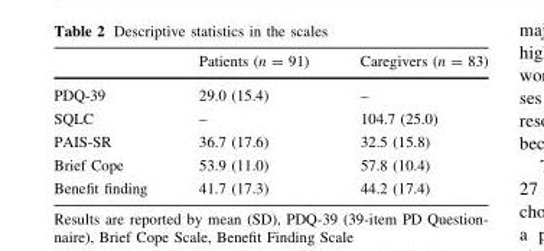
<table><thead><tr><td></td><td>Patients (n = 91)</td><td>Caregivers (n = 83)</td></tr></thead><tbody><tr><td>PDQ-39</td><td>29.0 (15.4)</td><td>–</td></tr><tr><td>SQLC</td><td>–</td><td>104.7 (25.0)</td></tr><tr><td>PAIS-SR</td><td>36.7 (17.6)</td><td>32.5 (15.8)</td></tr><tr><td>Brief Cope</td><td>53.9 (11.0)</td><td>57.8 (10.4)</td></tr><tr><td>Benefit finding</td><td>41.7 (17.3)</td><td>44.2 (17.4)</td></tr></tbody></table>